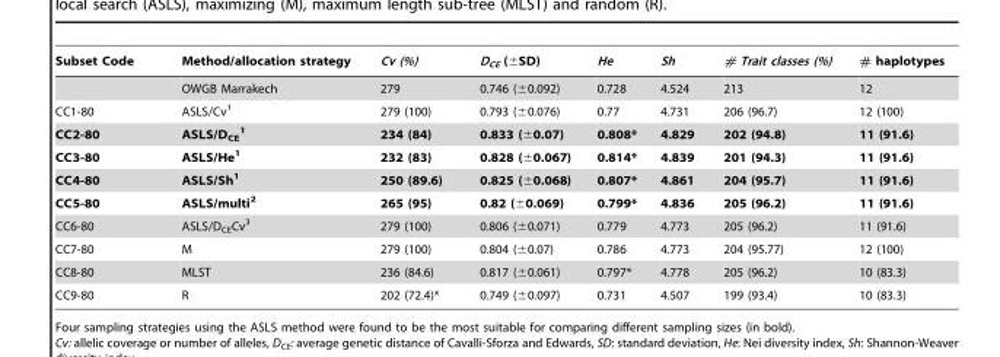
<table><thead><tr><td>Subset Code</td><td>Method/allocation strategy</td><td>Cv (%)</td><td>D<sub>CE</sub> (±SD)</td><td>He</td><td>Sh</td><td># Trait classes (%)</td><td># haplotypes</td></tr></thead><tbody><tr><td></td><td>OWGB Marrakech</td><td>279</td><td>0.746 (±0.092)</td><td>0.728</td><td>4.524</td><td>213</td><td>12</td></tr><tr><td>CC1-80</td><td>ASLS/Cv<sup>1</sup></td><td>279 (100)</td><td>0.793 (±0.076)</td><td>0.77</td><td>4.731</td><td>206 (96.7)</td><td>12 (100)</td></tr><tr><td>CC2-80</td><td>ASLS/D<sub>CE</sub> 1</td><td>234 (84)</td><td>0.833 (±0.07)</td><td>0.808*</td><td>4.829</td><td>202 (94.8)</td><td>11 (91.6)</td></tr><tr><td>CC3-80</td><td>ASLS/He1</td><td>232 (83)</td><td>0.828 (±0.067)</td><td>0.814*</td><td>4.839</td><td>201 (94.3)</td><td>11 (91.6)</td></tr><tr><td>CC4-80</td><td>ASLS/Sh1</td><td>250 (89.6)</td><td>0.825 (±0.068)</td><td>0.807*</td><td>4.861</td><td>204 (95.7)</td><td>11 (91.6)</td></tr><tr><td>CC5-80</td><td>ASLS/multi2</td><td>265 (95)</td><td>0.82 (±0.069)</td><td>0.799*</td><td>4.836</td><td>205 (96.2)</td><td>11 (91.6)</td></tr><tr><td>CC6-80</td><td>ASLS/D<sub>CE</sub>Cv<sup>3</sup></td><td>279 (100)</td><td>0.806 (±0.071)</td><td>0.779</td><td>4.773</td><td>205 (96.2)</td><td>11 (91.6)</td></tr><tr><td>CC7-80</td><td>M</td><td>279 (100)</td><td>0.804 (±0.07)</td><td>0.786</td><td>4.773</td><td>204 (95.77)</td><td>12 (100)</td></tr><tr><td>CC8-80</td><td>MLST</td><td>236 (84.6)</td><td>0.817 (±0.061)</td><td>0.797*</td><td>4.778</td><td>205 (96.2)</td><td>10 (83.3)</td></tr><tr><td>CC9-80</td><td>R</td><td>202 (72.4)*</td><td>0.749 (±0.097)</td><td>0.731</td><td>4.507</td><td>199 (93.4)</td><td>10 (83.3)</td></tr></tbody></table>